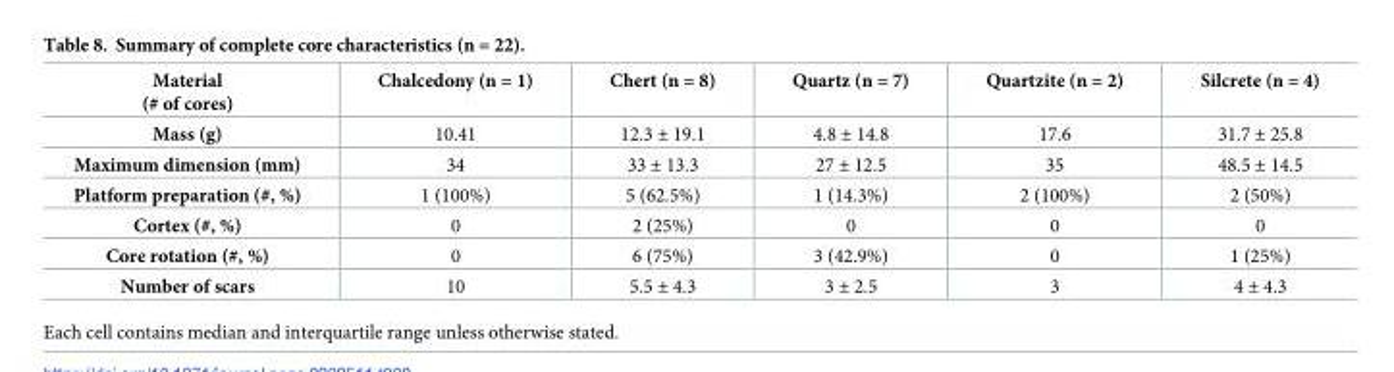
<table><thead><tr><td>Material (# of cores)</td><td>Chalcedony (n = 1)</td><td>Chert (n = 8)</td><td>Quartz (n = 7)</td><td>Quartzite (n = 2)</td><td>Silcrete (n = 4)</td></tr></thead><tbody><tr><td>Mass (g)</td><td>10.41</td><td>12.3 ± 19.1</td><td>4.8 ± 14.8</td><td>17.6</td><td>31.7 ± 25.8</td></tr><tr><td>Maximum dimension (mm)</td><td>34</td><td>33 ± 13.3</td><td>27 ± 12.5</td><td>35</td><td>48.5 ± 14.5</td></tr><tr><td>Platform preparation (#, %)</td><td>1 (100%)</td><td>5 (62.5%)</td><td>1 (14.3%)</td><td>2 (100%)</td><td>2 (50%)</td></tr><tr><td>Cortex (#, %)</td><td>0</td><td>2 (25%)</td><td>0</td><td>0</td><td>0</td></tr><tr><td>Core rotation (#, %)</td><td>0</td><td>6 (75%)</td><td>3 (42.9%)</td><td>0</td><td>1 (25%)</td></tr><tr><td>Number of scars</td><td>10</td><td>5.5 ± 4.3</td><td>3 ± 2.5</td><td>3</td><td>4 ± 4.3</td></tr></tbody></table>